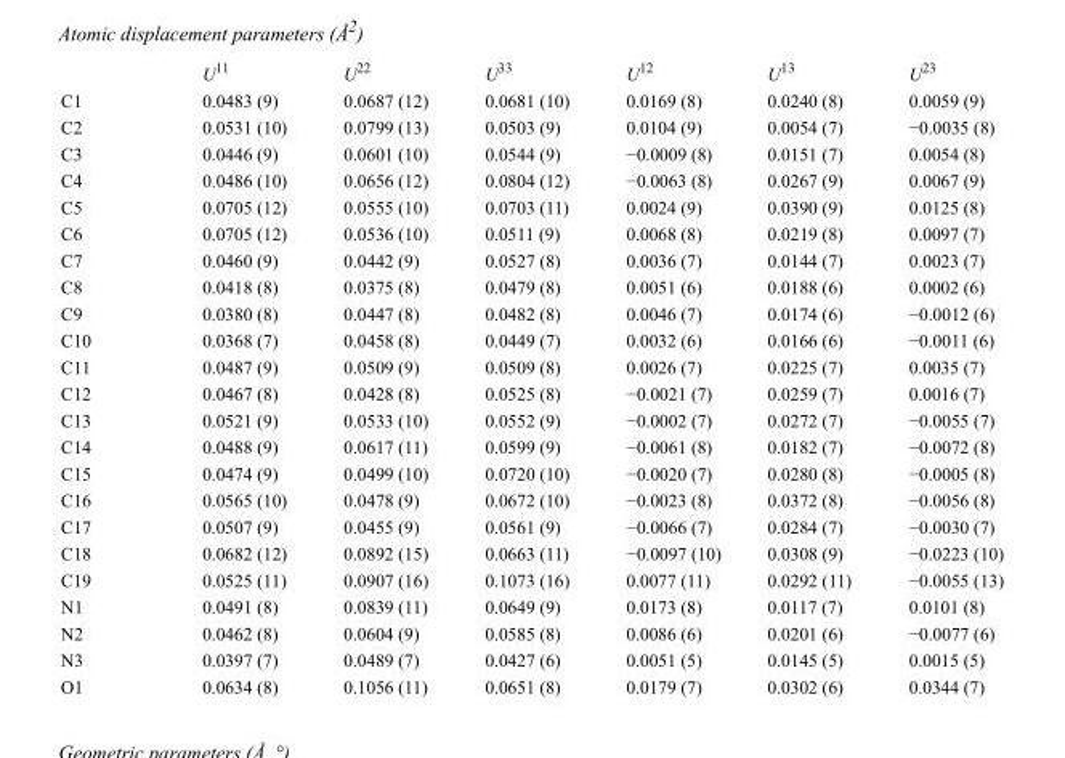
<table><thead><tr><td></td><td>U<sup>11</sup></td><td>U<sup>22</sup></td><td>U<sup>33</sup></td><td>U<sup>12</sup></td><td>U<sup>13</sup></td><td>U<sup>23</sup></td></tr></thead><tbody><tr><td>C1</td><td>0.0483 (9)</td><td>0.0687 (12)</td><td>0.0681 (10)</td><td>0.0169 (8)</td><td>0.0240 (8)</td><td>0.0059 (9)</td></tr><tr><td>C2</td><td>0.0531 (10)</td><td>0.0799 (13)</td><td>0.0503 (9)</td><td>0.0104 (9)</td><td>0.0054 (7)</td><td>−0.0035 (8)</td></tr><tr><td>C3</td><td>0.0446 (9)</td><td>0.0601 (10)</td><td>0.0544 (9)</td><td>−0.0009 (8)</td><td>0.0151 (7)</td><td>0.0054 (8)</td></tr><tr><td>C4</td><td>0.0486 (10)</td><td>0.0656 (12)</td><td>0.0804 (12)</td><td>−0.0063 (8)</td><td>0.0267 (9)</td><td>0.0067 (9)</td></tr><tr><td>C5</td><td>0.0705 (12)</td><td>0.0555 (10)</td><td>0.0703 (11)</td><td>0.0024 (9)</td><td>0.0390 (9)</td><td>0.0125 (8)</td></tr><tr><td>C6</td><td>0.0705 (12)</td><td>0.0536 (10)</td><td>0.0511 (9)</td><td>0.0068 (8)</td><td>0.0219 (8)</td><td>0.0097 (7)</td></tr><tr><td>C7</td><td>0.0460 (9)</td><td>0.0442 (9)</td><td>0.0527 (8)</td><td>0.0036 (7)</td><td>0.0144 (7)</td><td>0.0023 (7)</td></tr><tr><td>C8</td><td>0.0418 (8)</td><td>0.0375 (8)</td><td>0.0479 (8)</td><td>0.0051 (6)</td><td>0.0188 (6)</td><td>0.0002 (6)</td></tr><tr><td>C9</td><td>0.0380 (8)</td><td>0.0447 (8)</td><td>0.0482 (8)</td><td>0.0046 (7)</td><td>0.0174 (6)</td><td>−0.0012 (6)</td></tr><tr><td>C10</td><td>0.0368 (7)</td><td>0.0458 (8)</td><td>0.0449 (7)</td><td>0.0032 (6)</td><td>0.0166 (6)</td><td>−0.0011 (6)</td></tr><tr><td>C11</td><td>0.0487 (9)</td><td>0.0509 (9)</td><td>0.0509 (8)</td><td>0.0026 (7)</td><td>0.0225 (7)</td><td>0.0035 (7)</td></tr><tr><td>C12</td><td>0.0467 (8)</td><td>0.0428 (8)</td><td>0.0525 (8)</td><td>−0.0021 (7)</td><td>0.0259 (7)</td><td>0.0016 (7)</td></tr><tr><td>C13</td><td>0.0521 (9)</td><td>0.0533 (10)</td><td>0.0552 (9)</td><td>−0.0002 (7)</td><td>0.0272 (7)</td><td>−0.0055 (7)</td></tr><tr><td>C14</td><td>0.0488 (9)</td><td>0.0617 (11)</td><td>0.0599 (9)</td><td>−0.0061 (8)</td><td>0.0182 (7)</td><td>−0.0072 (8)</td></tr><tr><td>C15</td><td>0.0474 (9)</td><td>0.0499 (10)</td><td>0.0720 (10)</td><td>−0.0020 (7)</td><td>0.0280 (8)</td><td>−0.0005 (8)</td></tr><tr><td>C16</td><td>0.0565 (10)</td><td>0.0478 (9)</td><td>0.0672 (10)</td><td>−0.0023 (8)</td><td>0.0372 (8)</td><td>−0.0056 (8)</td></tr><tr><td>C17</td><td>0.0507 (9)</td><td>0.0455 (9)</td><td>0.0561 (9)</td><td>−0.0066 (7)</td><td>0.0284 (7)</td><td>−0.0030 (7)</td></tr><tr><td>C18</td><td>0.0682 (12)</td><td>0.0892 (15)</td><td>0.0663 (11)</td><td>−0.0097 (10)</td><td>0.0308 (9)</td><td>−0.0223 (10)</td></tr><tr><td>C19</td><td>0.0525 (11)</td><td>0.0907 (16)</td><td>0.1073 (16)</td><td>0.0077 (11)</td><td>0.0292 (11)</td><td>−0.0055 (13)</td></tr><tr><td>N1</td><td>0.0491 (8)</td><td>0.0839 (11)</td><td>0.0649 (9)</td><td>0.0173 (8)</td><td>0.0117 (7)</td><td>0.0101 (8)</td></tr><tr><td>N2</td><td>0.0462 (8)</td><td>0.0604 (9)</td><td>0.0585 (8)</td><td>0.0086 (6)</td><td>0.0201 (6)</td><td>−0.0077 (6)</td></tr><tr><td>N3</td><td>0.0397 (7)</td><td>0.0489 (7)</td><td>0.0427 (6)</td><td>0.0051 (5)</td><td>0.0145 (5)</td><td>0.0015 (5)</td></tr><tr><td>O1</td><td>0.0634 (8)</td><td>0.1056 (11)</td><td>0.0651 (8)</td><td>0.0179 (7)</td><td>0.0302 (6)</td><td>0.0344 (7)</td></tr></tbody></table>